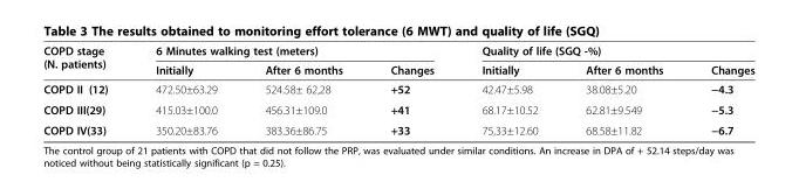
<table><thead><tr><td rowspan="2">COPD stage (N. patients)</td><td colspan="3">6 Minutes walking test (meters)</td><td colspan="3">Quality of life (SGQ -%)</td></tr><tr><td>Initially</td><td>After 6 months</td><td>Changes</td><td>Initially</td><td>After 6 months</td><td>Changes</td></tr></thead><tbody><tr><td>COPD II (12)</td><td>472.50±63.29</td><td>524.58± 62,28</td><td>+52</td><td>42.47±5.98</td><td>38.08±5.20</td><td>−4.3</td></tr><tr><td>COPD III(29)</td><td>415.03±100.0</td><td>456.31±109.0</td><td>+41</td><td>68.17±10.52</td><td>62.81±9.549</td><td>−5.3</td></tr><tr><td>COPD IV(33)</td><td>350.20±83.76</td><td>383.36±86.75</td><td>+33</td><td>75,33±12.60</td><td>68.58±11.82</td><td>−6.7</td></tr></tbody></table>